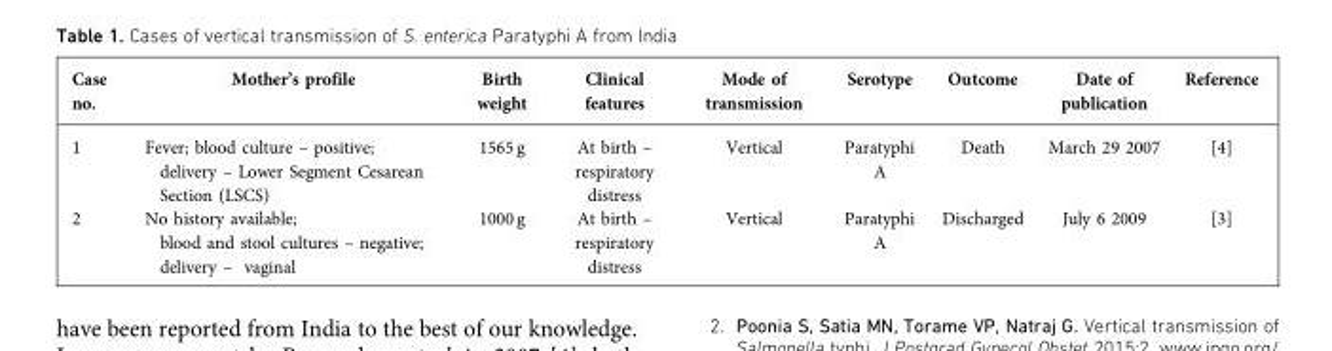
<table><thead><tr><td>Case no.</td><td>Mother’s profile</td><td>Birth weight</td><td>Clinical features</td><td>Mode of transmission</td><td>Serotype</td><td>Outcome</td><td>Date of publication</td><td>Reference</td></tr></thead><tbody><tr><td>1</td><td>Fever; blood culture – positive; delivery – Lower Segment Cesarean Section (LSCS)</td><td>1565 g</td><td>At birth – respiratory distress</td><td>Vertical</td><td>Paratyphi A</td><td>Death</td><td>March 29 2007</td><td>[4]</td></tr><tr><td>2</td><td>No history available; blood and stool cultures – negative; delivery – vaginal</td><td>1000 g</td><td>At birth – respiratory distress</td><td>Vertical</td><td>Paratyphi A</td><td>Discharged</td><td>July 6 2009</td><td>[3]</td></tr></tbody></table>